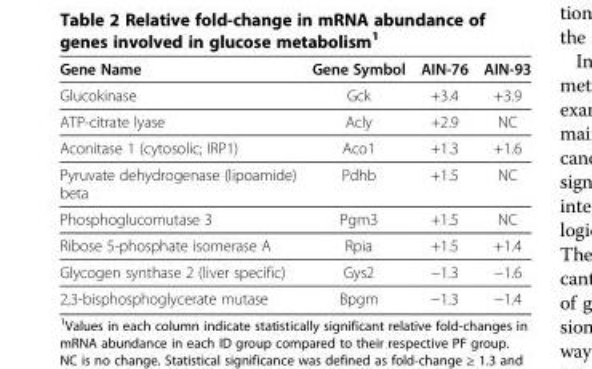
<table><thead><tr><td>Gene Name</td><td>Gene Symbol</td><td>AIN-76</td><td>AIN-93</td></tr></thead><tbody><tr><td>Glucokinase</td><td>Gck</td><td>+3.4</td><td>+3.9</td></tr><tr><td>ATP-citrate lyase</td><td>Acly</td><td>+2.9</td><td>NC</td></tr><tr><td>Aconitase 1 (cytosolic; IRP1)</td><td>Aco1</td><td>+1.3</td><td>+1.6</td></tr><tr><td>Pyruvate dehydrogenase (lipoamide) beta</td><td>Pdhb</td><td>+1.5</td><td>NC</td></tr><tr><td>Phosphoglucomutase 3</td><td>Pgm3</td><td>+1.5</td><td>NC</td></tr><tr><td>Ribose 5-phosphate isomerase A</td><td>Rpia</td><td>+1.5</td><td>+1.4</td></tr><tr><td>Glycogen synthase 2 (liver specific)</td><td>Gys2</td><td>−1.3</td><td>−1.6</td></tr><tr><td>2,3-bisphosphoglycerate mutase</td><td>Bpgm</td><td>−1.3</td><td>−1.4</td></tr></tbody></table>